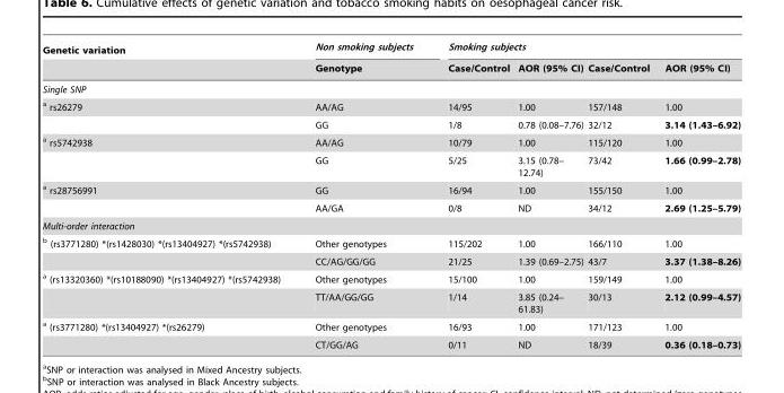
<table><thead><tr><td rowspan="2">Genetic variation</td><td rowspan="2">Non smoking subjects Genotype</td><td colspan="4">Smoking subjects</td></tr><tr><td>Case/Control</td><td>AOR (95% CI)</td><td>Case/Control</td><td>AOR (95% CI)</td></tr></thead><tbody><tr><td colspan="6">Single SNP</td></tr><tr><td rowspan="2">a rs26279</td><td>AA/AG</td><td>14/95</td><td>1.00</td><td>157/148</td><td>1.00</td></tr><tr><td>GG</td><td>1/8</td><td>0.78 (0.08–7.76)</td><td>32/12</td><td>3.14 (1.43–6.92)</td></tr><tr><td rowspan="2">a rs5742938</td><td>AA/AG</td><td>10/79</td><td>1.00</td><td>115/120</td><td>1.00</td></tr><tr><td>GG</td><td>5/25</td><td>3.15 (0.78– 12.74)</td><td>73/42</td><td>1.66 (0.99–2.78)</td></tr><tr><td rowspan="2">a rs28756991</td><td>GG</td><td>16/94</td><td>1.00</td><td>155/150</td><td>1.00</td></tr><tr><td>AA/GA</td><td>0/8</td><td>ND</td><td>34/12</td><td>2.69 (1.25–5.79)</td></tr><tr><td colspan="6">Multi-order interaction</td></tr><tr><td rowspan="2">b (rs3771280) *(rs1428030) *(rs13404927) *(rs5742938)</td><td>Other genotypes</td><td>115/202</td><td>1.00</td><td>166/110</td><td>1.00</td></tr><tr><td>CC/AG/GG/GG</td><td>21/25</td><td>1.39 (0.69–2.75)</td><td>43/7</td><td>3.37 (1.38–8.26)</td></tr><tr><td rowspan="2">a (rs13320360) *(rs10188090) *(rs13404927) *(rs5742938)</td><td>Other genotypes</td><td>15/100</td><td>1.00</td><td>159/149</td><td>1.00</td></tr><tr><td>TT/AA/GG/GG</td><td>1/14</td><td>3.85 (0.24– 61.83)</td><td>30/13</td><td>2.12 (0.99–4.57)</td></tr><tr><td rowspan="2">a (rs3771280) *(rs13404927) *(rs26279)</td><td>Other genotypes</td><td>16/93</td><td>1.00</td><td>171/123</td><td>1.00</td></tr><tr><td>CT/GG/AG</td><td>0/11</td><td>ND</td><td>18/39</td><td>0.36 (0.18–0.73)</td></tr></tbody></table>